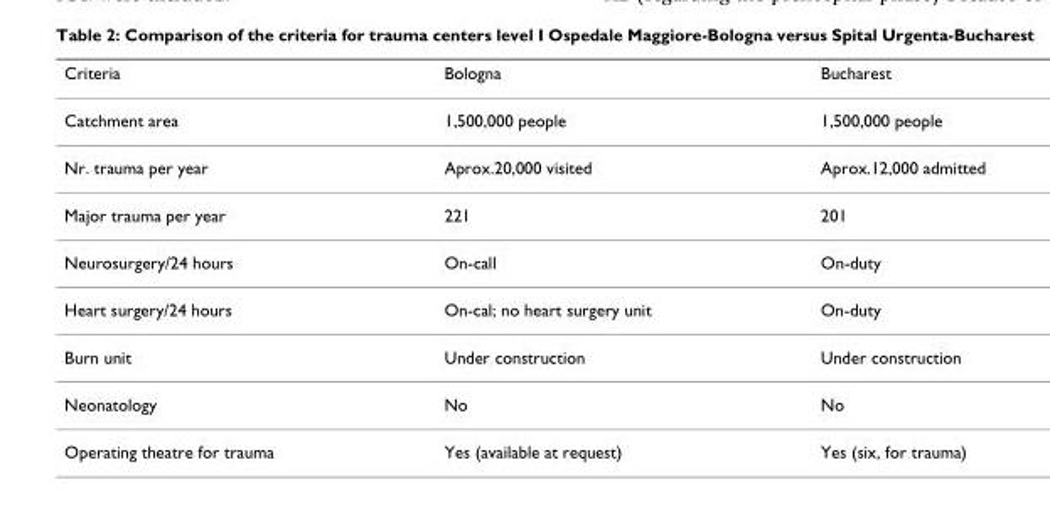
<table><thead><tr><td>Criteria</td><td>Bologna</td><td>Bucharest</td></tr></thead><tbody><tr><td>Catchment area</td><td>1,500,000 people</td><td>1,500,000 people</td></tr><tr><td>Nr. trauma per year</td><td>Aprox.20,000 visited</td><td>Aprox.12,000 admitted</td></tr><tr><td>Major trauma per year</td><td>221</td><td>201</td></tr><tr><td>Neurosurgery/24 hours</td><td>On-call</td><td>On-duty</td></tr><tr><td>Heart surgery/24 hours</td><td>On-cal; no heart surgery unit</td><td>On-duty</td></tr><tr><td>Burn unit</td><td>Under construction</td><td>Under construction</td></tr><tr><td>Neonatology</td><td>No</td><td>No</td></tr><tr><td>Operating theatre for trauma</td><td>Yes (available at request)</td><td>Yes (six, for trauma)</td></tr></tbody></table>